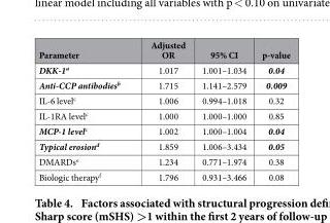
<table><thead><tr><td>Parameter</td><td>Adjusted OR</td><td>95% CI</td><td>p-value</td></tr></thead><tbody><tr><td>DKK-1<sup>a</sup></td><td>1.017</td><td>1.001–1.034</td><td>0.04</td></tr><tr><td>Anti-CCP antibodies<sup>b</sup></td><td>1.715</td><td>1.141–2.579</td><td>0.009</td></tr><tr><td>IL-6 level<sup>c</sup></td><td>1.006</td><td>0.994–1.018</td><td>0.32</td></tr><tr><td>IL-1RA level<sup>c</sup></td><td>1.000</td><td>1.000–1.000</td><td>0.85</td></tr><tr><td>MCP-1 level<sup>c</sup></td><td>1.002</td><td>1.000–1.004</td><td>0.04</td></tr><tr><td>Typical erosion<sup>d</sup></td><td>1.859</td><td>1.006–3.434</td><td>0.05</td></tr><tr><td>DMARDs<sup>e</sup></td><td>1.234</td><td>0.771–1.974</td><td>0.38</td></tr><tr><td>Biologic therapy<sup>f</sup></td><td>1.796</td><td>0.931–3.466</td><td>0.08</td></tr></tbody></table>